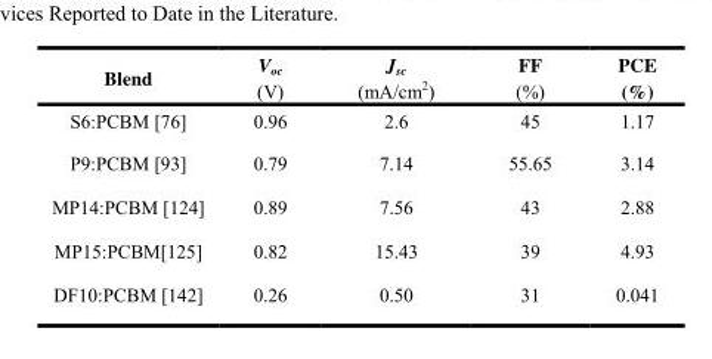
<table><thead><tr><td>Blend</td><td>V<sub>oc</sub> (V)</td><td>J<sub>sc</sub> (mA/cm<sup>2</sup>)</td><td>FF (%)</td><td>PCE (%)</td></tr></thead><tbody><tr><td>S6:PCBM [76]</td><td>0.96</td><td>2.6</td><td>45</td><td>1.17</td></tr><tr><td>P9:PCBM [93]</td><td>0.79</td><td>7.14</td><td>55.65</td><td>3.14</td></tr><tr><td>MP14:PCBM [124]</td><td>0.89</td><td>7.56</td><td>43</td><td>2.88</td></tr><tr><td>MP15:PCBM[125]</td><td>0.82</td><td>15.43</td><td>39</td><td>4.93</td></tr><tr><td>DF10:PCBM [142]</td><td>0.26</td><td>0.50</td><td>31</td><td>0.041</td></tr></tbody></table>